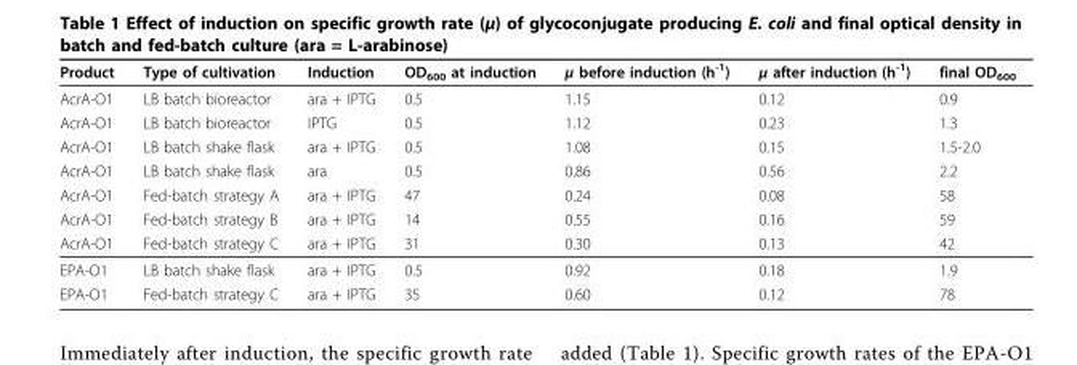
<table><thead><tr><td>Product</td><td>Type of cultivation</td><td>Induction</td><td>OD<sub>600</sub> at induction</td><td>μ before induction (h<sup>-1</sup>)</td><td>μ after induction (h<sup>-1</sup>)</td><td>final OD<sub>600</sub></td></tr></thead><tbody><tr><td>AcrA-O1</td><td>LB batch bioreactor</td><td>ara + IPTG</td><td>0.5</td><td>1.15</td><td>0.12</td><td>0.9</td></tr><tr><td>AcrA-O1</td><td>LB batch bioreactor</td><td>IPTG</td><td>0.5</td><td>1.12</td><td>0.23</td><td>1.3</td></tr><tr><td>AcrA-O1</td><td>LB batch shake flask</td><td>ara + IPTG</td><td>0.5</td><td>1.08</td><td>0.15</td><td>1.5-2.0</td></tr><tr><td>AcrA-O1</td><td>LB batch shake flask</td><td>ara</td><td>0.5</td><td>0.86</td><td>0.56</td><td>2.2</td></tr><tr><td>AcrA-O1</td><td>Fed-batch strategy A</td><td>ara + IPTG</td><td>47</td><td>0.24</td><td>0.08</td><td>58</td></tr><tr><td>AcrA-O1</td><td>Fed-batch strategy B</td><td>ara + IPTG</td><td>14</td><td>0.55</td><td>0.16</td><td>59</td></tr><tr><td>AcrA-O1</td><td>Fed-batch strategy C</td><td>ara + IPTG</td><td>31</td><td>0.30</td><td>0.13</td><td>42</td></tr><tr><td>EPA-O1</td><td>LB batch shake flask</td><td>ara + IPTG</td><td>0.5</td><td>0.92</td><td>0.18</td><td>1.9</td></tr><tr><td>EPA-O1</td><td>Fed-batch strategy C</td><td>ara + IPTG</td><td>35</td><td>0.60</td><td>0.12</td><td>78</td></tr></tbody></table>